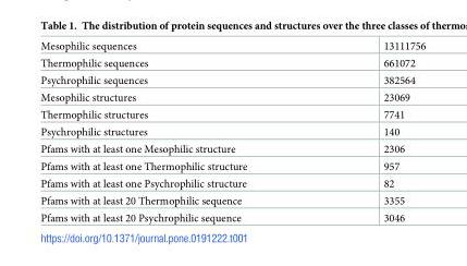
<table><tbody><tr><td>Mesophilic sequences</td><td>13111756</td></tr><tr><td>Thermophilic sequences</td><td>661072</td></tr><tr><td>Psychrophilic sequences</td><td>382564</td></tr><tr><td>Mesophilic structures</td><td>23069</td></tr><tr><td>Thermophilic structures</td><td>7741</td></tr><tr><td>Psychrophilic structures</td><td>140</td></tr><tr><td>Pfams with at least one Mesophilic structure</td><td>2306</td></tr><tr><td>Pfams with at least one Thermophilic structure</td><td>957</td></tr><tr><td>Pfams with at least one Psychrophilic structure</td><td>82</td></tr><tr><td>Pfams with at least 20 Thermophilic sequence</td><td>3355</td></tr><tr><td>Pfams with at least 20 Psychrophilic sequence</td><td>3046</td></tr></tbody></table>